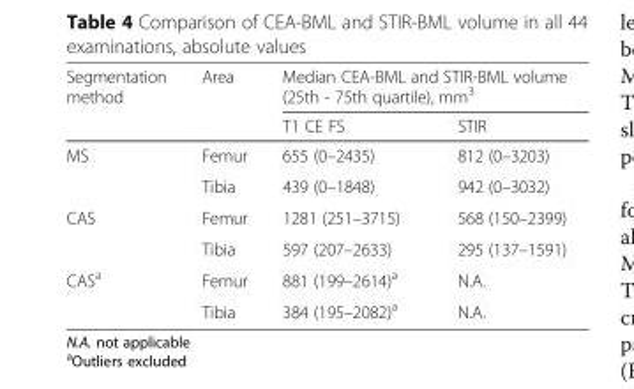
<table><thead><tr><td rowspan="2">Segmentation method</td><td rowspan="2">Area</td><td colspan="2">Median CEA-BML and STIR-BML volume (25th - 75th quartile), mm<sup>3</sup></td></tr><tr><td>T1 CE FS</td><td>STIR</td></tr></thead><tbody><tr><td rowspan="2">MS</td><td>Femur</td><td>655 (0–2435)</td><td>812 (0–3203)</td></tr><tr><td>Tibia</td><td>439 (0–1848)</td><td>942 (0–3032)</td></tr><tr><td rowspan="2">CAS</td><td>Femur</td><td>1281 (251–3715)</td><td>568 (150–2399)</td></tr><tr><td>Tibia</td><td>597 (207–2633)</td><td>295 (137–1591)</td></tr><tr><td rowspan="2">CAS<sup>a</sup></td><td>Femur</td><td>881 (199–2614)<sup>a</sup></td><td>N.A.</td></tr><tr><td>Tibia</td><td>384 (195–2082)<sup>a</sup></td><td>N.A.</td></tr></tbody></table>